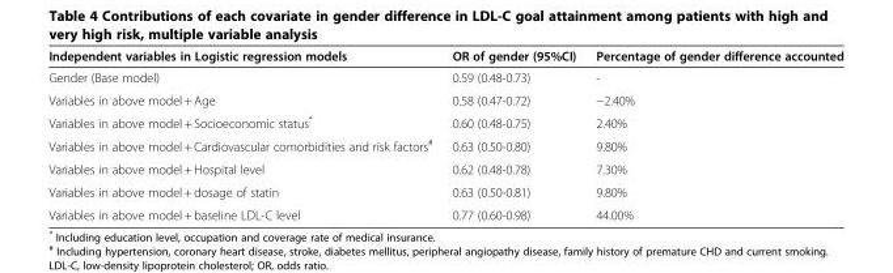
<table><thead><tr><td>Independent variables in Logistic regression models</td><td>OR of gender (95%CI)</td><td>Percentage of gender difference accounted</td></tr></thead><tbody><tr><td>Gender (Base model)</td><td>0.59 (0.48-0.73)</td><td>-</td></tr><tr><td>Variables in above model + Age</td><td>0.58 (0.47-0.72)</td><td>−2.40%</td></tr><tr><td>Variables in above model + Socioeconomic status*</td><td>0.60 (0.48-0.75)</td><td>2.40%</td></tr><tr><td>Variables in above model + Cardiovascular comorbidities and risk factors<sup>#</sup></td><td>0.63 (0.50-0.80)</td><td>9.80%</td></tr><tr><td>Variables in above model + Hospital level</td><td>0.62 (0.48-0.78)</td><td>7.30%</td></tr><tr><td>Variables in above model + dosage of statin</td><td>0.63 (0.50-0.81)</td><td>9.80%</td></tr><tr><td>Variables in above model + baseline LDL-C level</td><td>0.77 (0.60-0.98)</td><td>44.00%</td></tr></tbody></table>